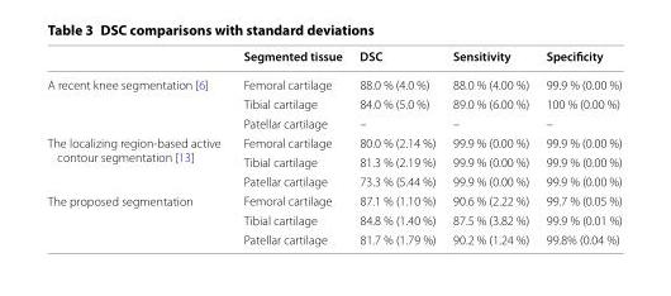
<table><thead><tr><td></td><td>Segmented tissue</td><td>DSC</td><td>Sensitivity</td><td>Specificity</td></tr></thead><tbody><tr><td rowspan="3">A recent knee segmentation [6]</td><td>Femoral cartilage</td><td>88.0 % (4.0 %)</td><td>88.0 % (4.00 %)</td><td>99.9 % (0.00 %)</td></tr><tr><td>Tibial cartilage</td><td>84.0 % (5.0 %)</td><td>89.0 % (6.00 %)</td><td>100 % (0.00 %)</td></tr><tr><td>Patellar cartilage</td><td>–</td><td>–</td><td>–</td></tr><tr><td rowspan="3">The localizing region‑based active contour segmentation [13]</td><td>Femoral cartilage</td><td>80.0 % (2.14 %)</td><td>99.9 % (0.00 %)</td><td>99.9 % (0.00 %)</td></tr><tr><td>Tibial cartilage</td><td>81.3 % (2.19 %)</td><td>99.9 % (0.00 %)</td><td>99.9 % (0.00 %)</td></tr><tr><td>Patellar cartilage</td><td>73.3 % (5.44 %)</td><td>99.9 % (0.00 %)</td><td>99.9 % (0.00 %)</td></tr><tr><td rowspan="3">The proposed segmentation</td><td>Femoral cartilage</td><td>87.1 % (1.10 %)</td><td>90.6 % (2.22 %)</td><td>99.7 % (0.05 %)</td></tr><tr><td>Tibial cartilage</td><td>84.8 % (1.40 %)</td><td>87.5 % (3.82 %)</td><td>99.9 % (0.01 %)</td></tr><tr><td>Patellar cartilage</td><td>81.7 % (1.79 %)</td><td>90.2 % (1.24 %)</td><td>99.8% (0.04 %)</td></tr></tbody></table>